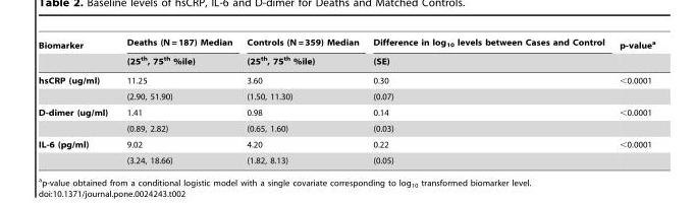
<table><thead><tr><td rowspan="2">Biomarker</td><td rowspan="2">Deaths (N = 187) Median (25<sup>th</sup>, 75<sup>th</sup> %ile)</td><td rowspan="2">Controls (N = 359) Median (25<sup>th</sup>, 75<sup>th</sup> %ile)</td><td rowspan="2">Difference in log<sub>10</sub> levels between Cases and Control (SE)</td><td rowspan="2">p-value<sup>a</sup></td></tr><tr></tr></thead><tbody><tr><td rowspan="2">hsCRP (ug/ml)</td><td>11.25</td><td>3.60</td><td>0.30</td><td>&lt;0.0001</td></tr><tr><td>(2.90, 51.90)</td><td>(1.50, 11.30)</td><td>(0.07)</td><td></td></tr><tr><td rowspan="2">D-dimer (ug/ml)</td><td>1.41</td><td>0.98</td><td>0.14</td><td>&lt;0.0001</td></tr><tr><td>(0.89, 2.82)</td><td>(0.65, 1.60)</td><td>(0.03)</td><td></td></tr><tr><td rowspan="2">IL-6 (pg/ml)</td><td>9.02</td><td>4.20</td><td>0.22</td><td>&lt;0.0001</td></tr><tr><td>(3.24, 18.66)</td><td>(1.82, 8.13)</td><td>(0.05)</td><td></td></tr></tbody></table>